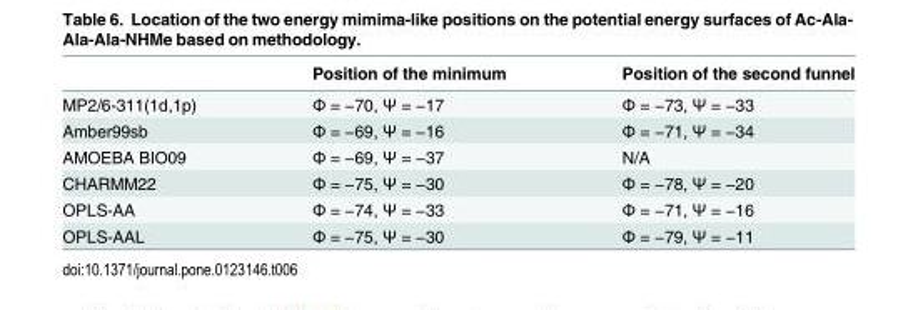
<table><thead><tr><td></td><td>Position of the minimum</td><td>Position of the second funnel</td></tr></thead><tbody><tr><td>MP2/6-311(1d,1p)</td><td>Φ = −70, Ψ = −17</td><td>Φ = −73, Ψ = −33</td></tr><tr><td>Amber99sb</td><td>Φ = −69, Ψ = −16</td><td>Φ = −71, Ψ = −34</td></tr><tr><td>AMOEBA BIO09</td><td>Φ = −69, Ψ = −37</td><td>N/A</td></tr><tr><td>CHARMM22</td><td>Φ = −75, Ψ = −30</td><td>Φ = −78, Ψ = −20</td></tr><tr><td>OPLS-AA</td><td>Φ = −74, Ψ = −33</td><td>Φ = −71, Ψ = −16</td></tr><tr><td>OPLS-AAL</td><td>Φ = −75, Ψ = −30</td><td>Φ = −79, Ψ = −11</td></tr></tbody></table>